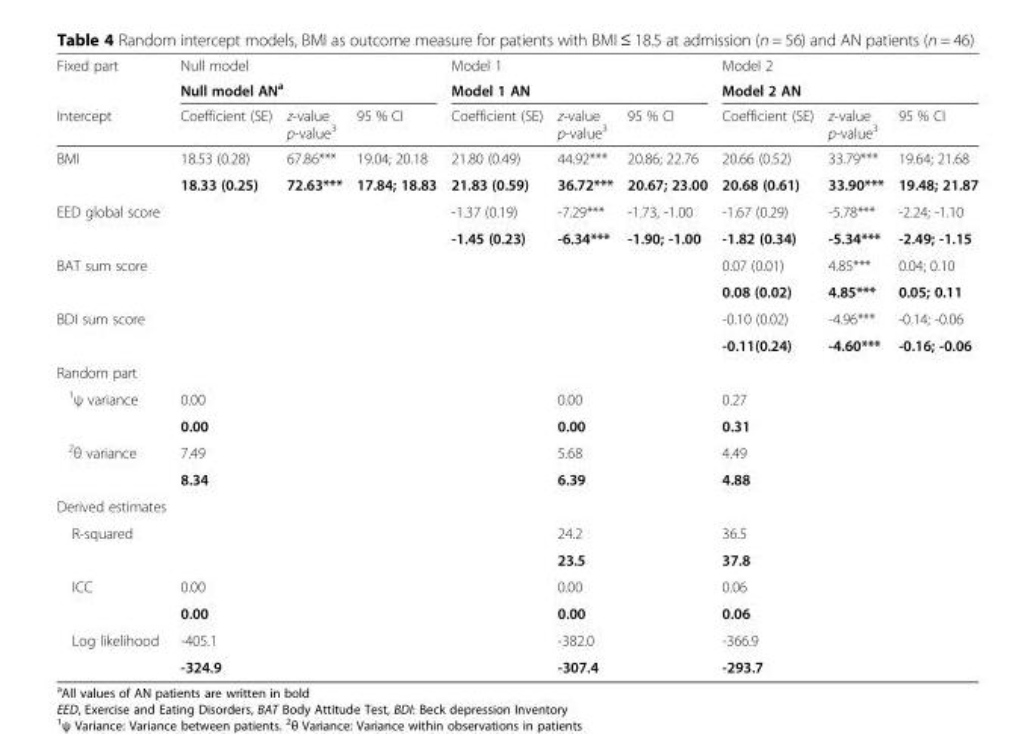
<table><thead><tr><td rowspan="3">Fixed part Intercept</td><td>Null model</td><td></td><td></td><td>Model 1</td><td></td><td></td><td>Model 2</td><td></td><td></td></tr><tr><td colspan="3">Null model AN<sup>a</sup></td><td colspan="3">Model 1 AN</td><td colspan="3">Model 2 AN</td></tr><tr><td>Coefficient (SE)</td><td>z-value p-value<sup>3</sup></td><td>95 % CI</td><td>Coefficient (SE)</td><td>z-value p-value<sup>3</sup></td><td>95 % CI</td><td>Coefficient (SE)</td><td>z-value p-value<sup>3</sup></td><td>95 % CI</td></tr></thead><tbody><tr><td rowspan="2">BMI</td><td>18.53 (0.28)</td><td>67.86***</td><td>19.04; 20.18</td><td>21.80 (0.49)</td><td>44.92***</td><td>20.86; 22.76</td><td>20.66 (0.52)</td><td>33.79***</td><td>19.64; 21.68</td></tr><tr><td>18.33 (0.25)</td><td>72.63***</td><td>17.84; 18.83</td><td>21.83 (0.59)</td><td>36.72***</td><td>20.67; 23.00</td><td>20.68 (0.61)</td><td>33.90***</td><td>19.48; 21.87</td></tr><tr><td rowspan="2">EED global score</td><td rowspan="2"></td><td rowspan="2"></td><td rowspan="2"></td><td>-1.37 (0.19)</td><td>-7.29***</td><td>-1.73, -1.00</td><td>-1.67 (0.29)</td><td>-5.78***</td><td>-2.24; -1.10</td></tr><tr><td>-1.45 (0.23)</td><td>-6.34***</td><td>-1.90; -1.00</td><td>-1.82 (0.34)</td><td>-5.34***</td><td>-2.49; -1.15</td></tr><tr><td rowspan="2">BAT sum score</td><td rowspan="2"></td><td rowspan="2"></td><td rowspan="2"></td><td rowspan="2"></td><td rowspan="2"></td><td rowspan="2"></td><td>0.07 (0.01)</td><td>4.85***</td><td>0.04; 0.10</td></tr><tr><td>0.08 (0.02)</td><td>4.85***</td><td>0.05; 0.11</td></tr><tr><td rowspan="2">BDI sum score</td><td rowspan="2"></td><td rowspan="2"></td><td rowspan="2"></td><td rowspan="2"></td><td rowspan="2"></td><td rowspan="2"></td><td>-0.10 (0.02)</td><td>-4.96***</td><td>-0.14; -0.06</td></tr><tr><td>-0.11(0.24)</td><td>-4.60***</td><td>-0.16; -0.06</td></tr><tr><td colspan="10">Random part</td></tr><tr><td rowspan="2"><sup>1</sup>ψ variance</td><td>0.00</td><td rowspan="2"></td><td rowspan="2"></td><td rowspan="2"></td><td>0.00</td><td rowspan="2"></td><td>0.27</td><td rowspan="2"></td><td rowspan="2"></td></tr><tr><td>0.00</td><td>0.00</td><td>0.31</td></tr><tr><td rowspan="2"><sup>2</sup>θ variance</td><td>7.49</td><td rowspan="2"></td><td rowspan="2"></td><td rowspan="2"></td><td>5.68</td><td rowspan="2"></td><td>4.49</td><td rowspan="2"></td><td rowspan="2"></td></tr><tr><td>8.34</td><td>6.39</td><td>4.88</td></tr><tr><td colspan="10">Derived estimates</td></tr><tr><td rowspan="2">R-squared</td><td rowspan="2"></td><td rowspan="2"></td><td rowspan="2"></td><td rowspan="2"></td><td>24.2</td><td rowspan="2"></td><td>36.5</td><td rowspan="2"></td><td rowspan="2"></td></tr><tr><td>23.5</td><td>37.8</td></tr><tr><td rowspan="2">ICC</td><td>0.00</td><td rowspan="2"></td><td rowspan="2"></td><td rowspan="2"></td><td>0.00</td><td rowspan="2"></td><td>0.06</td><td rowspan="2"></td><td rowspan="2"></td></tr><tr><td>0.00</td><td>0.00</td><td>0.06</td></tr><tr><td rowspan="2">Log likelihood</td><td>-405.1</td><td rowspan="2"></td><td rowspan="2"></td><td rowspan="2"></td><td>-382.0</td><td rowspan="2"></td><td>-366.9</td><td rowspan="2"></td><td rowspan="2"></td></tr><tr><td>-324.9</td><td>-307.4</td><td>-293.7</td></tr></tbody></table>